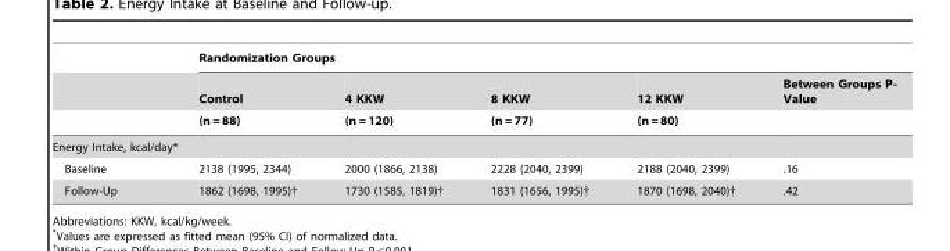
<table><thead><tr><td rowspan="3"></td><td colspan="5">Randomization Groups</td></tr><tr><td rowspan="2">Control (n = 88)</td><td rowspan="2">4 KKW (n = 120)</td><td rowspan="2">8 KKW (n = 77)</td><td rowspan="2">12 KKW (n = 80)</td><td rowspan="2">Between Groups P- Value</td></tr><tr></tr></thead><tbody><tr><td colspan="6">Energy Intake, kcal/day*</td></tr><tr><td>Baseline</td><td>2138 (1995, 2344)</td><td>2000 (1866, 2138)</td><td>2228 (2040, 2399)</td><td>2188 (2040, 2399)</td><td>.16</td></tr><tr><td>Follow-Up</td><td>1862 (1698, 1995)†</td><td>1730 (1585, 1819)†</td><td>1831 (1656, 1995)†</td><td>1870 (1698, 2040)†</td><td>.42</td></tr></tbody></table>